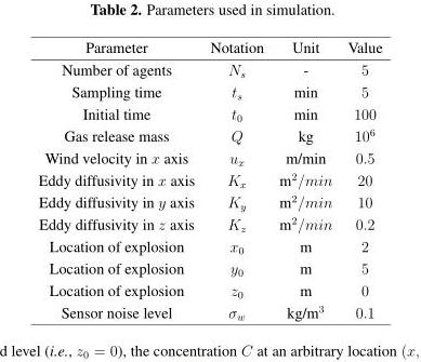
<table><thead><tr><td>Parameter</td><td>Notation</td><td>Unit</td><td>Value</td></tr></thead><tbody><tr><td>Number of agents</td><td>N<sub>s</sub></td><td>-</td><td>5</td></tr><tr><td>Sampling time</td><td>t<sub>s</sub></td><td>min</td><td>5</td></tr><tr><td>Initial time</td><td>t<sub>0</sub></td><td>min</td><td>100</td></tr><tr><td>Gas release mass</td><td>Q</td><td>kg</td><td>10<sup>6</sup></td></tr><tr><td>Wind velocity in x axis</td><td>u<sub>x</sub></td><td>m/min</td><td>0.5</td></tr><tr><td>Eddy diffusivity in x axis</td><td>K<sub>x</sub></td><td>m<sup>2</sup>/min</td><td>20</td></tr><tr><td>Eddy diffusivity in y axis</td><td>K<sub>y</sub></td><td>m<sup>2</sup>/min</td><td>10</td></tr><tr><td>Eddy diffusivity in z axis</td><td>K<sub>z</sub></td><td>m<sup>2</sup>/min</td><td>0.2</td></tr><tr><td>Location of explosion</td><td>x<sub>0</sub></td><td>m</td><td>2</td></tr><tr><td>Location of explosion</td><td>y<sub>0</sub></td><td>m</td><td>5</td></tr><tr><td>Location of explosion</td><td>z<sub>0</sub></td><td>m</td><td>0</td></tr><tr><td>Sensor noise level</td><td>σ<sub>w</sub></td><td>kg/m<sup>3</sup></td><td>0.1</td></tr></tbody></table>